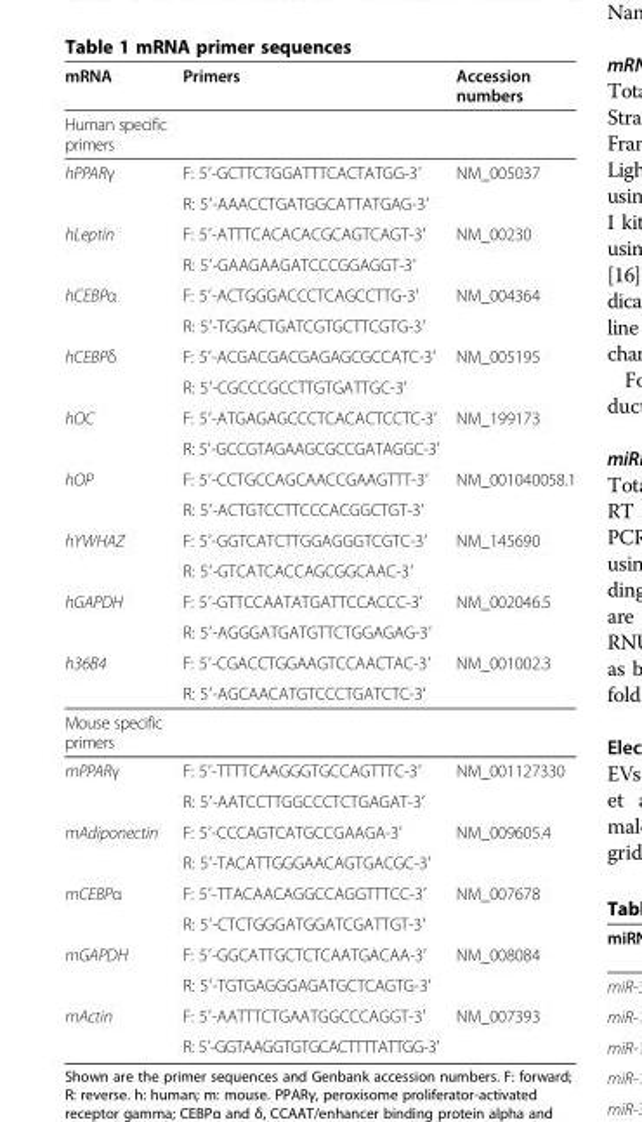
<table><thead><tr><td>mRNA</td><td>Primers</td><td>Accession numbers</td></tr></thead><tbody><tr><td colspan="3">Human specific primers</td></tr><tr><td rowspan="2">hPPARγ</td><td>F: 5′-GCTTCTGGATTTCACTATGG-3′</td><td>NM_005037</td></tr><tr><td>R: 5′-AAACCTGATGGCATTATGAG-3′</td><td></td></tr><tr><td rowspan="2">hLeptin</td><td>F: 5′-ATTTCACACACGCAGTCAGT-3′</td><td>NM_00230</td></tr><tr><td>R: 5′-GAAGAAGATCCCGGAGGT-3′</td><td></td></tr><tr><td rowspan="2">hCEBPα</td><td>F: 5′-ACTGGGACCCTCAGCCTTG-3′</td><td>NM_004364</td></tr><tr><td>R: 5′-TGGACTGATCGTGCTTCGTG-3′</td><td></td></tr><tr><td rowspan="2">hCEBPδ</td><td>F: 5′-ACGACGACGAGAGCGCCATC-3′</td><td>NM_005195</td></tr><tr><td>R: 5′-CGCCCGCCTTGTGATTGC-3′</td><td></td></tr><tr><td rowspan="2">hOC</td><td>F: 5′-ATGAGAGCCCTCACACTCCTC-3′</td><td>NM_199173</td></tr><tr><td>R: 5′-GCCGTAGAAGCGCCGATAGGC-3′</td><td></td></tr><tr><td rowspan="2">hOP</td><td>F: 5′-CCTGCCAGCAACCGAAGTTT-3′</td><td>NM_001040058.1</td></tr><tr><td>R: 5′-ACTGTCCTTCCCACGGCTGT-3′</td><td></td></tr><tr><td rowspan="2">hYWHAZ</td><td>F: 5′-GGTCATCTTGGAGGGTCGTC-3′</td><td>NM_145690</td></tr><tr><td>R: 5′-GTCATCACCAGCGGCAAC-3′</td><td></td></tr><tr><td rowspan="2">hGAPDH</td><td>F: 5′-GTTCCAATATGATTCCACCC-3′</td><td>NM_002046.5</td></tr><tr><td>R: 5′-AGGGATGATGTTCTGGAGAG-3′</td><td></td></tr><tr><td rowspan="2">h36B4</td><td>F: 5′-CGACCTGGAAGTCCAACTAC-3′</td><td>NM_001002.3</td></tr><tr><td>R: 5′-AGCAACATGTCCCTGATCTC-3′</td><td></td></tr><tr><td colspan="3">Mouse specific primers</td></tr><tr><td rowspan="2">mPPARγ</td><td>F: 5′-TTTTCAAGGGTGCCAGTTTC-3′</td><td>NM_001127330</td></tr><tr><td>R: 5′-AATCCTTGGCCCTCTGAGAT-3′</td><td></td></tr><tr><td rowspan="2">mAdiponectin</td><td>F: 5′-CCCAGTCATGCCGAAGA-3′</td><td>NM_009605.4</td></tr><tr><td>R: 5′-TACATTGGGAACAGTGACGC-3′</td><td></td></tr><tr><td rowspan="2">mCEBPα</td><td>F: 5′-TTACAACAGGCCAGGTTTCC-3′</td><td>NM_007678</td></tr><tr><td>R: 5′-CTCTGGGATGGATCGATTGT-3′</td><td></td></tr><tr><td rowspan="2">mGAPDH</td><td>F: 5′-GGCATTGCTCTCAATGACAA-3′</td><td>NM_008084</td></tr><tr><td>R: 5′-TGTGAGGGAGATGCTCAGTG-3′</td><td></td></tr><tr><td rowspan="2">mActin</td><td>F: 5′-AATTTCTGAATGGCCCAGGT-3′</td><td>NM_007393</td></tr><tr><td>R: 5′-GGTAAGGTGTGCACTTTTATTGG-3′</td><td></td></tr></tbody></table>